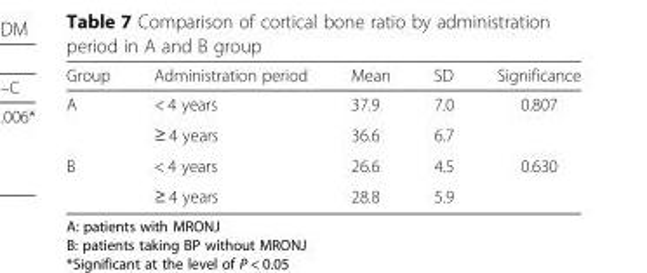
<table><thead><tr><td>Group</td><td>Administration period</td><td>Mean</td><td>SD</td><td>Significance</td></tr></thead><tbody><tr><td rowspan="2">A</td><td>&lt; 4 years</td><td>37.9</td><td>7.0</td><td rowspan="2">0.807</td></tr><tr><td>≥ 4 years</td><td>36.6</td><td>6.7</td></tr><tr><td rowspan="2">B</td><td>&lt; 4 years</td><td>26.6</td><td>4.5</td><td rowspan="2">0.630</td></tr><tr><td>≥ 4 years</td><td>28.8</td><td>5.9</td></tr></tbody></table>